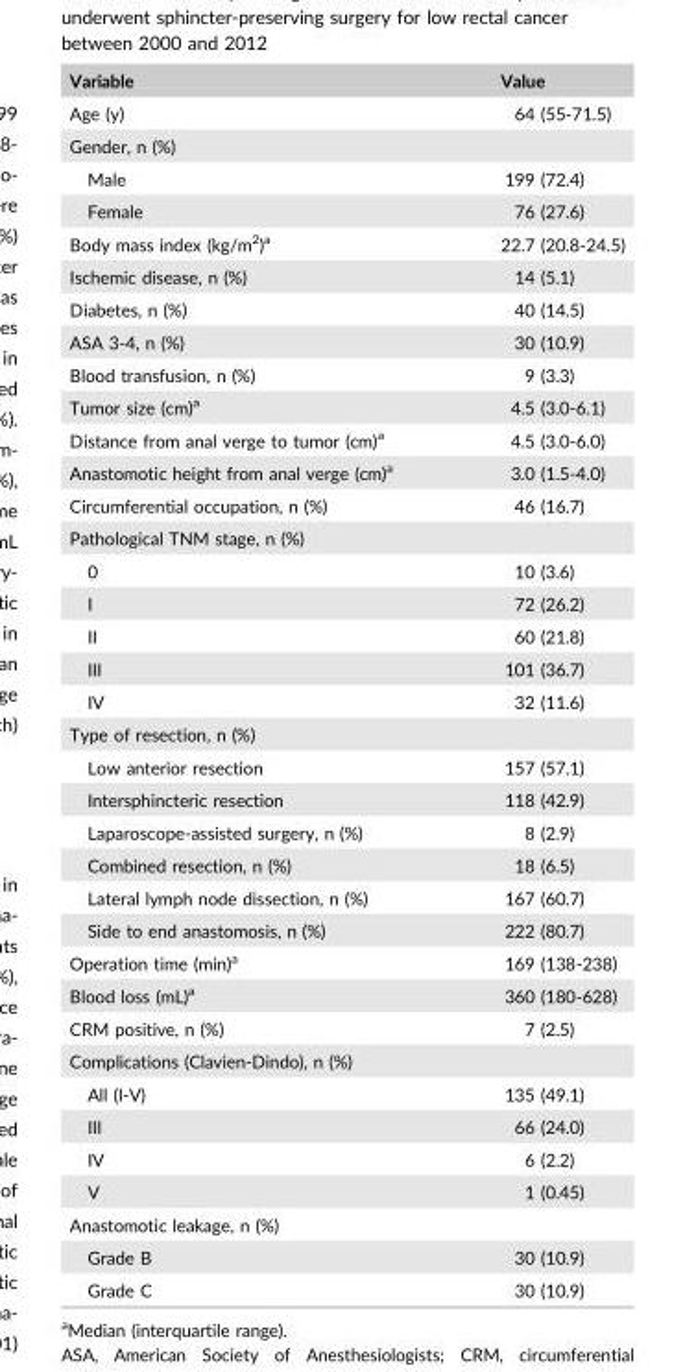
<table><thead><tr><td>Variable</td><td>Value</td></tr></thead><tbody><tr><td>Age (y)</td><td>64 (55-71.5)</td></tr><tr><td colspan="2">Gender, n (%)</td></tr><tr><td>Male</td><td>199 (72.4)</td></tr><tr><td>Female</td><td>76 (27.6)</td></tr><tr><td>Body mass index (kg/m<sup>2</sup>)<sup>a</sup></td><td>22.7 (20.8-24.5)</td></tr><tr><td>Ischemic disease, n (%)</td><td>14 (5.1)</td></tr><tr><td>Diabetes, n (%)</td><td>40 (14.5)</td></tr><tr><td>ASA 3-4, n (%)</td><td>30 (10.9)</td></tr><tr><td>Blood transfusion, n (%)</td><td>9 (3.3)</td></tr><tr><td>Tumor size (cm)<sup>a</sup></td><td>4.5 (3.0-6.1)</td></tr><tr><td>Distance from anal verge to tumor (cm)<sup>a</sup></td><td>4.5 (3.0-6.0)</td></tr><tr><td>Anastomotic height from anal verge (cm)<sup>a</sup></td><td>3.0 (1.5-4.0)</td></tr><tr><td>Circumferential occupation, n (%)</td><td>46 (16.7)</td></tr><tr><td colspan="2">Pathological TNM stage, n (%)</td></tr><tr><td>0</td><td>10 (3.6)</td></tr><tr><td>I</td><td>72 (26.2)</td></tr><tr><td>II</td><td>60 (21.8)</td></tr><tr><td>III</td><td>101 (36.7)</td></tr><tr><td>IV</td><td>32 (11.6)</td></tr><tr><td colspan="2">Type of resection, n (%)</td></tr><tr><td>Low anterior resection</td><td>157 (57.1)</td></tr><tr><td>Intersphincteric resection</td><td>118 (42.9)</td></tr><tr><td>Laparoscope-assisted surgery, n (%)</td><td>8 (2.9)</td></tr><tr><td>Combined resection, n (%)</td><td>18 (6.5)</td></tr><tr><td>Lateral lymph node dissection, n (%)</td><td>167 (60.7)</td></tr><tr><td>Side to end anastomosis, n (%)</td><td>222 (80.7)</td></tr><tr><td>Operation time (min)<sup>a</sup></td><td>169 (138-238)</td></tr><tr><td>Blood loss (mL)<sup>a</sup></td><td>360 (180-628)</td></tr><tr><td>CRM positive, n (%)</td><td>7 (2.5)</td></tr><tr><td colspan="2">Complications (Clavien-Dindo), n (%)</td></tr><tr><td>All (I-V)</td><td>135 (49.1)</td></tr><tr><td>III</td><td>66 (24.0)</td></tr><tr><td>IV</td><td>6 (2.2)</td></tr><tr><td>V</td><td>1 (0.45)</td></tr><tr><td colspan="2">Anastomotic leakage, n (%)</td></tr><tr><td>Grade B</td><td>30 (10.9)</td></tr><tr><td>Grade C</td><td>30 (10.9)</td></tr></tbody></table>